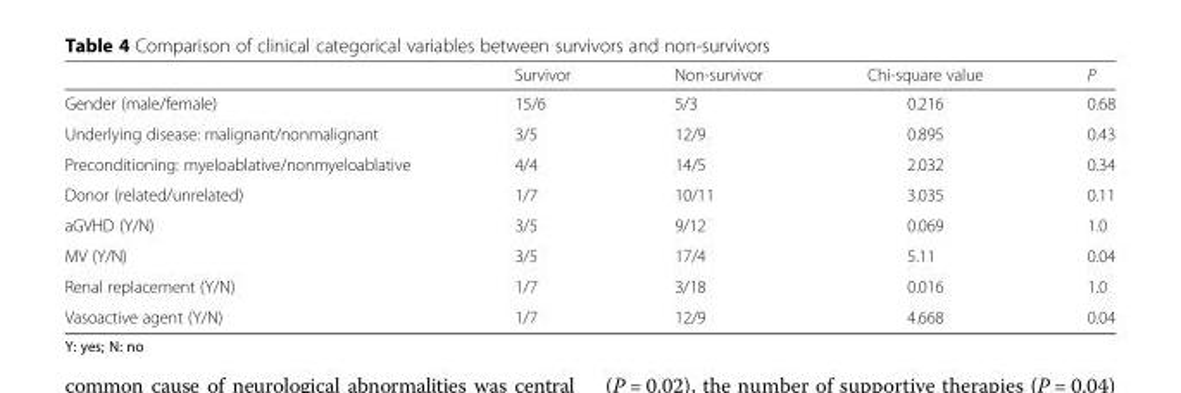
<table><thead><tr><td></td><td>Survivor</td><td>Non-survivor</td><td>Chi-square value</td><td>P</td></tr></thead><tbody><tr><td>Gender (male/female)</td><td>15/6</td><td>5/3</td><td>0.216</td><td>0.68</td></tr><tr><td>Underlying disease: malignant/nonmalignant</td><td>3/5</td><td>12/9</td><td>0.895</td><td>0.43</td></tr><tr><td>Preconditioning: myeloablative/nonmyeloablative</td><td>4/4</td><td>14/5</td><td>2.032</td><td>0.34</td></tr><tr><td>Donor (related/unrelated)</td><td>1/7</td><td>10/11</td><td>3.035</td><td>0.11</td></tr><tr><td>aGVHD (Y/N)</td><td>3/5</td><td>9/12</td><td>0.069</td><td>1.0</td></tr><tr><td>MV (Y/N)</td><td>3/5</td><td>17/4</td><td>5.11</td><td>0.04</td></tr><tr><td>Renal replacement (Y/N)</td><td>1/7</td><td>3/18</td><td>0.016</td><td>1.0</td></tr><tr><td>Vasoactive agent (Y/N)</td><td>1/7</td><td>12/9</td><td>4.668</td><td>0.04</td></tr></tbody></table>